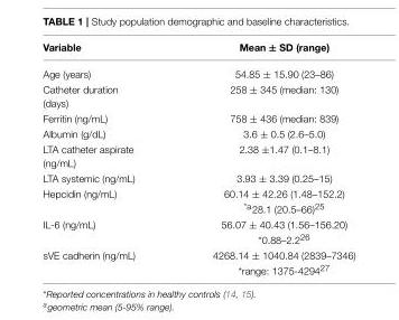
<table><thead><tr><td>Variable</td><td>Mean ± SD (range)</td></tr></thead><tbody><tr><td>Age (years)</td><td>54.85 ± 15.90 (23–86)</td></tr><tr><td>Catheter duration (days)</td><td>258 ± 345 (median: 130)</td></tr><tr><td>Ferritin (ng/mL)</td><td>758 ± 436 (median: 839)</td></tr><tr><td>Albumin (g/dL)</td><td>3.6 ± 0.5 (2.6–5.0)</td></tr><tr><td>LTA catheter aspirate (ng/mL)</td><td>2.38 ±1.47 (0.1–8.1)</td></tr><tr><td>LTA systemic (ng/mL)</td><td>3.93 ± 3.39 (0.25–15)</td></tr><tr><td rowspan="2">Hepcidin (ng/mL)</td><td>60.14 ± 42.26 (1.48–152.2)</td></tr><tr><td><sup>*a</sup>28.1 (20.5–66)<sup>25</sup></td></tr><tr><td rowspan="2">IL-6 (ng/mL)</td><td>56.07 ± 40.43 (1.56–156.20)</td></tr><tr><td>*0.88–2.2<sup>26</sup></td></tr><tr><td rowspan="2">sVE cadherin (ng/mL)</td><td>4268.14 ± 1040.84 (2839–7346)</td></tr><tr><td>*range: 1375-4294<sup>27</sup></td></tr></tbody></table>